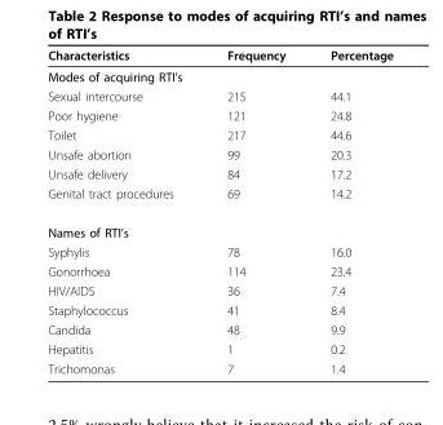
<table><thead><tr><td>Characteristics</td><td>Frequency</td><td>Percentage</td></tr></thead><tbody><tr><td colspan="3">Modes of acquiring RTI’s</td></tr><tr><td>Sexual intercourse</td><td>215</td><td>44.1</td></tr><tr><td>Poor hygiene</td><td>121</td><td>24.8</td></tr><tr><td>Toilet</td><td>217</td><td>44.6</td></tr><tr><td>Unsafe abortion</td><td>99</td><td>20.3</td></tr><tr><td>Unsafe delivery</td><td>84</td><td>17.2</td></tr><tr><td>Genital tract procedures</td><td>69</td><td>14.2</td></tr><tr><td colspan="3">Names of RTI’s</td></tr><tr><td>Syphylis</td><td>78</td><td>16.0</td></tr><tr><td>Gonorrhoea</td><td>114</td><td>23.4</td></tr><tr><td>HIV/AIDS</td><td>36</td><td>7.4</td></tr><tr><td>Staphylococcus</td><td>41</td><td>8.4</td></tr><tr><td>Candida</td><td>48</td><td>9.9</td></tr><tr><td>Hepatitis</td><td>1</td><td>0.2</td></tr><tr><td>Trichomonas</td><td>7</td><td>1.4</td></tr></tbody></table>